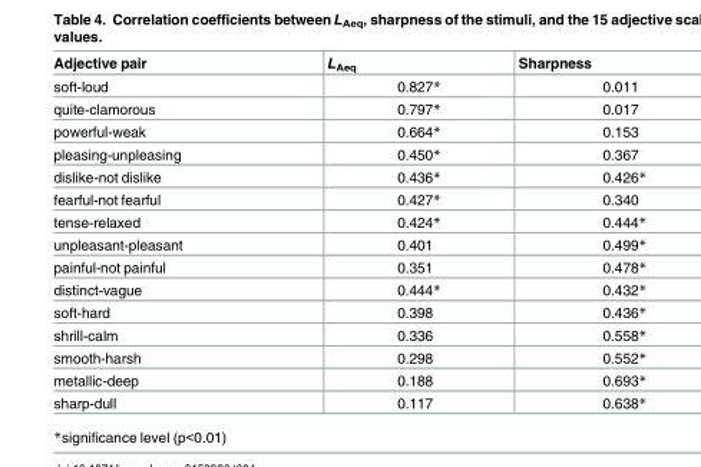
<table><thead><tr><td>Adjective pair</td><td>L<sub>Aeq</sub></td><td>Sharpness</td></tr></thead><tbody><tr><td>soft-loud</td><td>0.827*</td><td>0.011</td></tr><tr><td>quite-clamorous</td><td>0.797*</td><td>0.017</td></tr><tr><td>powerful-weak</td><td>0.664*</td><td>0.153</td></tr><tr><td>pleasing-unpleasing</td><td>0.450*</td><td>0.367</td></tr><tr><td>dislike-not dislike</td><td>0.436*</td><td>0.426*</td></tr><tr><td>fearful-not fearful</td><td>0.427*</td><td>0.340</td></tr><tr><td>tense-relaxed</td><td>0.424*</td><td>0.444*</td></tr><tr><td>unpleasant-pleasant</td><td>0.401</td><td>0.499*</td></tr><tr><td>painful-not painful</td><td>0.351</td><td>0.478*</td></tr><tr><td>distinct-vague</td><td>0.444*</td><td>0.432*</td></tr><tr><td>soft-hard</td><td>0.398</td><td>0.436*</td></tr><tr><td>shrill-calm</td><td>0.336</td><td>0.558*</td></tr><tr><td>smooth-harsh</td><td>0.298</td><td>0.552*</td></tr><tr><td>metallic-deep</td><td>0.188</td><td>0.693*</td></tr><tr><td>sharp-dull</td><td>0.117</td><td>0.638*</td></tr></tbody></table>